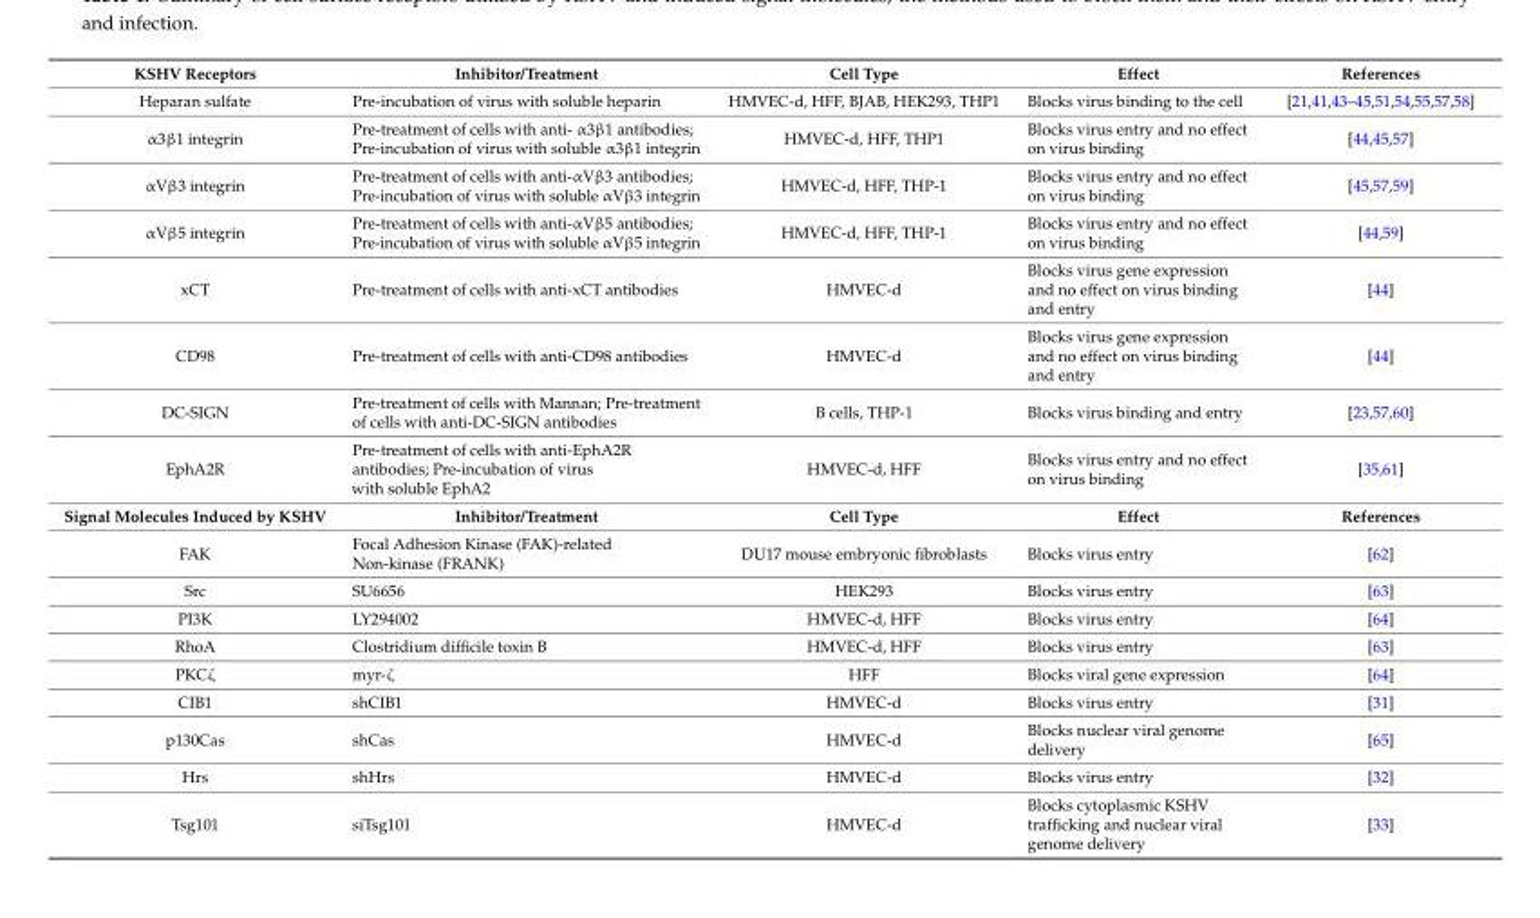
<table><tbody><tr><td>KSHV Receptors</td><td>Inhibitor/Treatment</td><td>Cell Type</td><td>Effect</td><td>References</td></tr><tr><td>Heparan sulfate</td><td>Pre-incubation of virus with soluble heparin</td><td>HMVEC-d, HFF, BJAB, HEK293, THP1</td><td>Blocks virus binding to the cell</td><td>[21,41,43–45,51,54,55,57,58]</td></tr><tr><td>α3β1 integrin</td><td>Pre-treatment of cells with anti- α3β1 antibodies; Pre-incubation of virus with soluble α3β1 integrin</td><td>HMVEC-d, HFF, THP1</td><td>Blocks virus entry and no effect on virus binding</td><td>[44,45,57]</td></tr><tr><td>αVβ3 integrin</td><td>Pre-treatment of cells with anti-αVβ3 antibodies; Pre-incubation of virus with soluble αVβ3 integrin</td><td>HMVEC-d, HFF, THP-1</td><td>Blocks virus entry and no effect on virus binding</td><td>[45,57,59]</td></tr><tr><td>αVβ5 integrin</td><td>Pre-treatment of cells with anti-αVβ5 antibodies; Pre-incubation of virus with soluble αVβ5 integrin</td><td>HMVEC-d, HFF, THP-1</td><td>Blocks virus entry and no effect on virus binding</td><td>[44,59]</td></tr><tr><td>xCT</td><td>Pre-treatment of cells with anti-xCT antibodies</td><td>HMVEC-d</td><td>Blocks virus gene expression and no effect on virus binding and entry</td><td>[44]</td></tr><tr><td>CD98</td><td>Pre-treatment of cells with anti-CD98 antibodies</td><td>HMVEC-d</td><td>Blocks virus gene expression and no effect on virus binding and entry</td><td>[44]</td></tr><tr><td>DC-SIGN</td><td>Pre-treatment of cells with Mannan; Pre-treatment of cells with anti-DC-SIGN antibodies</td><td>B cells, THP-1</td><td>Blocks virus binding and entry</td><td>[23,57,60]</td></tr><tr><td>EphA2R</td><td>Pre-treatment of cells with anti-EphA2R antibodies; Pre-incubation of virus with soluble EphA2</td><td>HMVEC-d, HFF</td><td>Blocks virus entry and no effect on virus binding</td><td>[35,61]</td></tr><tr><td>Signal Molecules Induced by KSHV</td><td>Inhibitor/Treatment</td><td>Cell Type</td><td>Effect</td><td>References</td></tr><tr><td>FAK</td><td>Focal Adhesion Kinase (FAK)-related Non-kinase (FRANK)</td><td>DU17 mouse embryonic fibroblasts</td><td>Blocks virus entry</td><td>[62]</td></tr><tr><td>Src</td><td>SU6656</td><td>HEK293</td><td>Blocks virus entry</td><td>[63]</td></tr><tr><td>PI3K</td><td>LY294002</td><td>HMVEC-d, HFF</td><td>Blocks virus entry</td><td>[64]</td></tr><tr><td>RhoA</td><td>Clostridium difficile toxin B</td><td>HMVEC-d, HFF</td><td>Blocks virus entry</td><td>[63]</td></tr><tr><td>PKCζ</td><td>myr-ζ</td><td>HFF</td><td>Blocks viral gene expression</td><td>[64]</td></tr><tr><td>CIB1</td><td>shCIB1</td><td>HMVEC-d</td><td>Blocks virus entry</td><td>[31]</td></tr><tr><td>p130Cas</td><td>shCas</td><td>HMVEC-d</td><td>Blocks nuclear viral genome delivery</td><td>[65]</td></tr><tr><td>Hrs</td><td>shHrs</td><td>HMVEC-d</td><td>Blocks virus entry</td><td>[32]</td></tr><tr><td>Tsg101</td><td>siTsg101</td><td>HMVEC-d</td><td>Blocks cytoplasmic KSHV trafficking and nuclear viral genome delivery</td><td>[33]</td></tr></tbody></table>